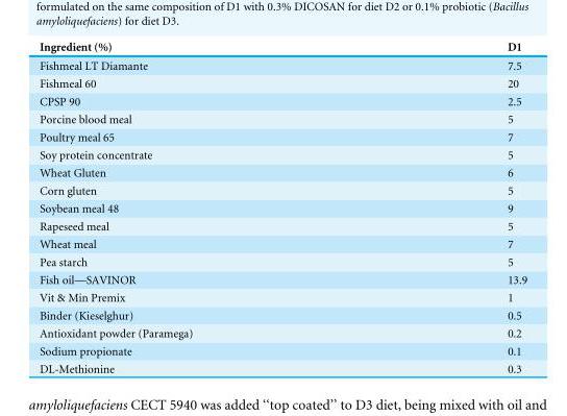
<table><thead><tr><td>Ingredient (%)</td><td>D1</td></tr></thead><tbody><tr><td>Fishmeal LT Diamante</td><td>7.5</td></tr><tr><td>Fishmeal 60</td><td>20</td></tr><tr><td>CPSP 90</td><td>2.5</td></tr><tr><td>Porcine blood meal</td><td>5</td></tr><tr><td>Poultry meal 65</td><td>7</td></tr><tr><td>Soy protein concentrate</td><td>5</td></tr><tr><td>Wheat Gluten</td><td>6</td></tr><tr><td>Corn gluten</td><td>5</td></tr><tr><td>Soybean meal 48</td><td>9</td></tr><tr><td>Rapeseed meal</td><td>5</td></tr><tr><td>Wheat meal</td><td>7</td></tr><tr><td>Pea starch</td><td>5</td></tr><tr><td>Fish oil—SAVINOR</td><td>13.9</td></tr><tr><td>Vit &amp; Min Premix</td><td>1</td></tr><tr><td>Binder (Kieselghur)</td><td>0.5</td></tr><tr><td>Antioxidant powder (Paramega)</td><td>0.2</td></tr><tr><td>Sodium propionate</td><td>0.1</td></tr><tr><td>DL-Methionine</td><td>0.3</td></tr></tbody></table>